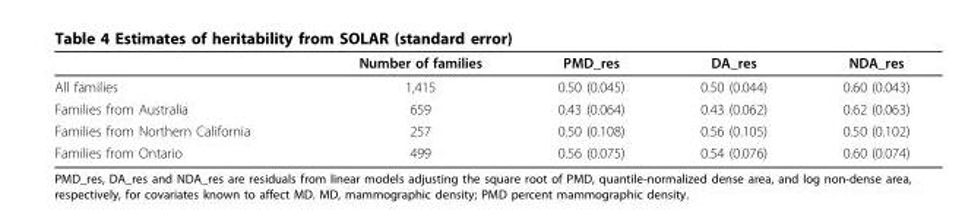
<table><thead><tr><td></td><td>Number of families</td><td>PMD_res</td><td>DA_res</td><td>NDA_res</td></tr></thead><tbody><tr><td>All families</td><td>1,415</td><td>0.50 (0.045)</td><td>0.50 (0.044)</td><td>0.60 (0.043)</td></tr><tr><td>Families from Australia</td><td>659</td><td>0.43 (0.064)</td><td>0.43 (0.062)</td><td>0.62 (0.063)</td></tr><tr><td>Families from Northern California</td><td>257</td><td>0.50 (0.108)</td><td>0.56 (0.105)</td><td>0.50 (0.102)</td></tr><tr><td>Families from Ontario</td><td>499</td><td>0.56 (0.075)</td><td>0.54 (0.076)</td><td>0.60 (0.074)</td></tr></tbody></table>